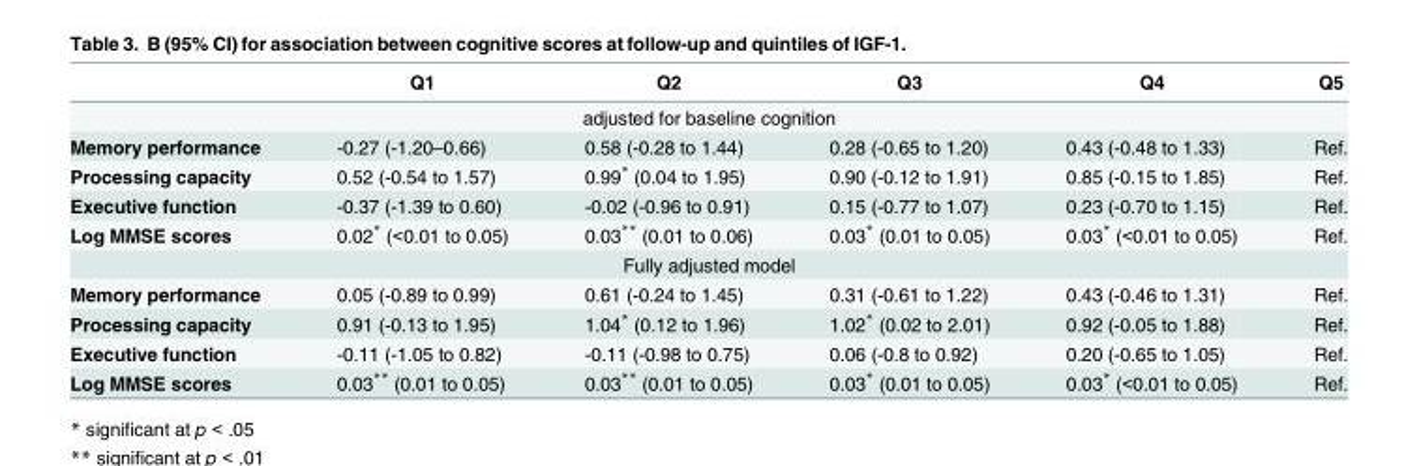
<table><thead><tr><td></td><td>Q1</td><td>Q2</td><td>Q3</td><td>Q4</td><td>Q5</td></tr></thead><tbody><tr><td colspan="6">adjusted for baseline cognition</td></tr><tr><td>Memory performance</td><td>-0.27 (-1.20–0.66)</td><td>0.58 (-0.28 to 1.44)</td><td>0.28 (-0.65 to 1.20)</td><td>0.43 (-0.48 to 1.33)</td><td>Ref.</td></tr><tr><td>Processing capacity</td><td>0.52 (-0.54 to 1.57)</td><td>0.99* (0.04 to 1.95)</td><td>0.90 (-0.12 to 1.91)</td><td>0.85 (-0.15 to 1.85)</td><td>Ref.</td></tr><tr><td>Executive function</td><td>-0.37 (-1.39 to 0.60)</td><td>-0.02 (-0.96 to 0.91)</td><td>0.15 (-0.77 to 1.07)</td><td>0.23 (-0.70 to 1.15)</td><td>Ref.</td></tr><tr><td>Log MMSE scores</td><td>0.02* (&lt;0.01 to 0.05)</td><td>0.03** (0.01 to 0.06)</td><td>0.03* (0.01 to 0.05)</td><td>0.03* (&lt;0.01 to 0.05)</td><td>Ref.</td></tr><tr><td colspan="6">Fully adjusted model</td></tr><tr><td>Memory performance</td><td>0.05 (-0.89 to 0.99)</td><td>0.61 (-0.24 to 1.45)</td><td>0.31 (-0.61 to 1.22)</td><td>0.43 (-0.46 to 1.31)</td><td>Ref.</td></tr><tr><td>Processing capacity</td><td>0.91 (-0.13 to 1.95)</td><td>1.04* (0.12 to 1.96)</td><td>1.02* (0.02 to 2.01)</td><td>0.92 (-0.05 to 1.88)</td><td>Ref.</td></tr><tr><td>Executive function</td><td>-0.11 (-1.05 to 0.82)</td><td>-0.11 (-0.98 to 0.75)</td><td>0.06 (-0.8 to 0.92)</td><td>0.20 (-0.65 to 1.05)</td><td>Ref.</td></tr><tr><td>Log MMSE scores</td><td>0.03** (0.01 to 0.05)</td><td>0.03** (0.01 to 0.05)</td><td>0.03* (0.01 to 0.05)</td><td>0.03* (&lt;0.01 to 0.05)</td><td>Ref.</td></tr></tbody></table>